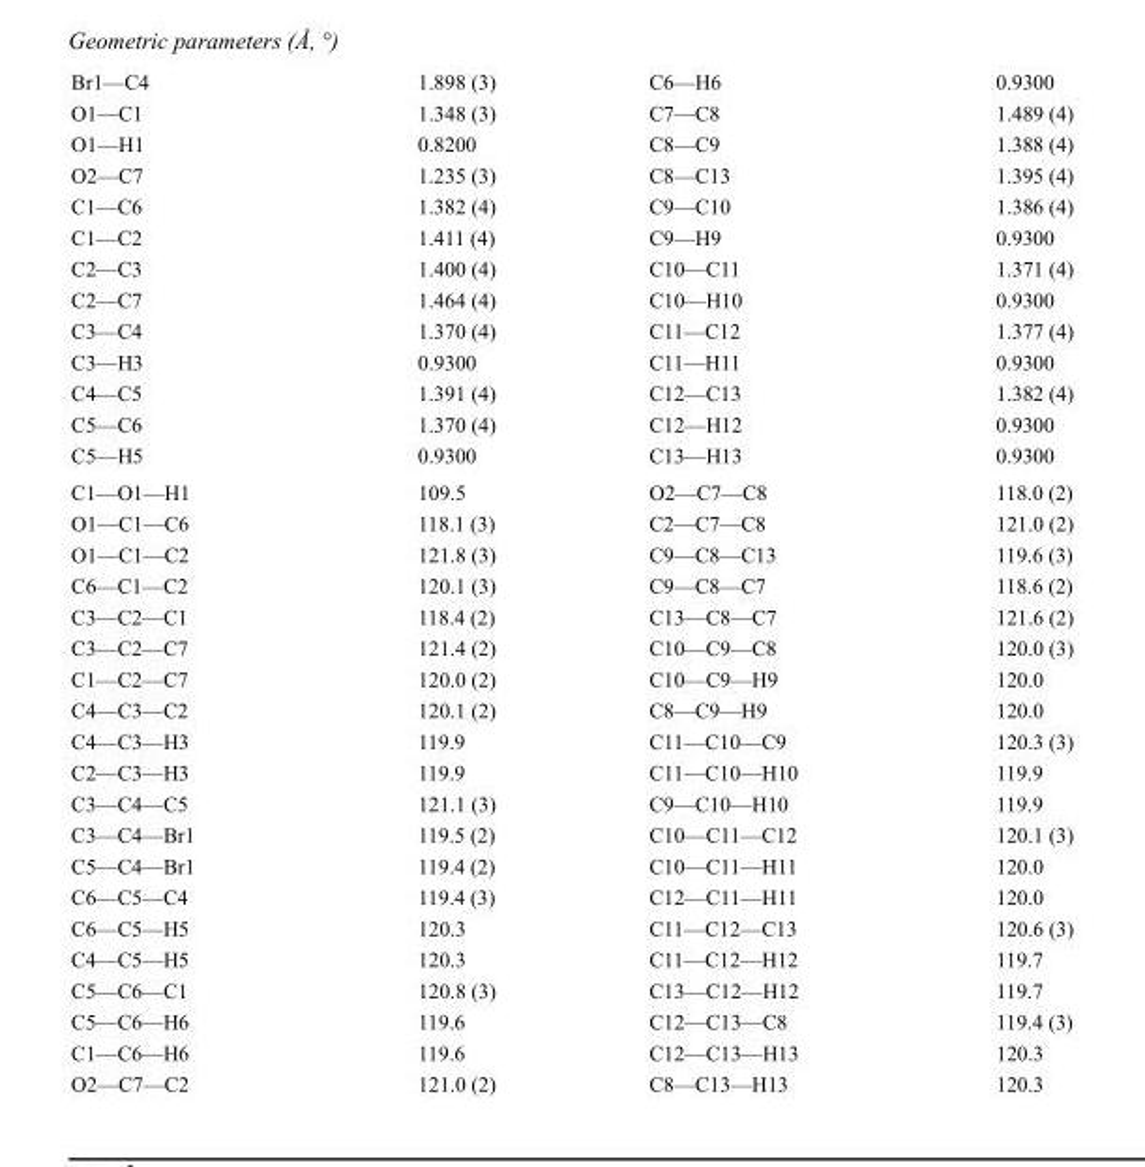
<table><tbody><tr><td>Br1—C4</td><td>1.898 (3)</td><td>C6—H6</td><td>0.9300</td></tr><tr><td>O1—C1</td><td>1.348 (3)</td><td>C7—C8</td><td>1.489 (4)</td></tr><tr><td>O1—H1</td><td>0.8200</td><td>C8—C9</td><td>1.388 (4)</td></tr><tr><td>O2—C7</td><td>1.235 (3)</td><td>C8—C13</td><td>1.395 (4)</td></tr><tr><td>C1—C6</td><td>1.382 (4)</td><td>C9—C10</td><td>1.386 (4)</td></tr><tr><td>C1—C2</td><td>1.411 (4)</td><td>C9—H9</td><td>0.9300</td></tr><tr><td>C2—C3</td><td>1.400 (4)</td><td>C10—C11</td><td>1.371 (4)</td></tr><tr><td>C2—C7</td><td>1.464 (4)</td><td>C10—H10</td><td>0.9300</td></tr><tr><td>C3—C4</td><td>1.370 (4)</td><td>C11—C12</td><td>1.377 (4)</td></tr><tr><td>C3—H3</td><td>0.9300</td><td>C11—H11</td><td>0.9300</td></tr><tr><td>C4—C5</td><td>1.391 (4)</td><td>C12—C13</td><td>1.382 (4)</td></tr><tr><td>C5—C6</td><td>1.370 (4)</td><td>C12—H12</td><td>0.9300</td></tr><tr><td>C5—H5</td><td>0.9300</td><td>C13—H13</td><td>0.9300</td></tr><tr><td>C1—O1—H1</td><td>109.5</td><td>O2—C7—C8</td><td>118.0 (2)</td></tr><tr><td>O1—C1—C6</td><td>118.1 (3)</td><td>C2—C7—C8</td><td>121.0 (2)</td></tr><tr><td>O1—C1—C2</td><td>121.8 (3)</td><td>C9—C8—C13</td><td>119.6 (3)</td></tr><tr><td>C6—C1—C2</td><td>120.1 (3)</td><td>C9—C8—C7</td><td>118.6 (2)</td></tr><tr><td>C3—C2—C1</td><td>118.4 (2)</td><td>C13—C8—C7</td><td>121.6 (2)</td></tr><tr><td>C3—C2—C7</td><td>121.4 (2)</td><td>C10—C9—C8</td><td>120.0 (3)</td></tr><tr><td>C1—C2—C7</td><td>120.0 (2)</td><td>C10—C9—H9</td><td>120.0</td></tr><tr><td>C4—C3—C2</td><td>120.1 (2)</td><td>C8—C9—H9</td><td>120.0</td></tr><tr><td>C4—C3—H3</td><td>119.9</td><td>C11—C10—C9</td><td>120.3 (3)</td></tr><tr><td>C2—C3—H3</td><td>119.9</td><td>C11—C10—H10</td><td>119.9</td></tr><tr><td>C3—C4—C5</td><td>121.1 (3)</td><td>C9—C10—H10</td><td>119.9</td></tr><tr><td>C3—C4—Br1</td><td>119.5 (2)</td><td>C10—C11—C12</td><td>120.1 (3)</td></tr><tr><td>C5—C4—Br1</td><td>119.4 (2)</td><td>C10—C11—H11</td><td>120.0</td></tr><tr><td>C6—C5—C4</td><td>119.4 (3)</td><td>C12—C11—H11</td><td>120.0</td></tr><tr><td>C6—C5—H5</td><td>120.3</td><td>C11—C12—C13</td><td>120.6 (3)</td></tr><tr><td>C4—C5—H5</td><td>120.3</td><td>C11—C12—H12</td><td>119.7</td></tr><tr><td>C5—C6—C1</td><td>120.8 (3)</td><td>C13—C12—H12</td><td>119.7</td></tr><tr><td>C5—C6—H6</td><td>119.6</td><td>C12—C13—C8</td><td>119.4 (3)</td></tr><tr><td>C1—C6—H6</td><td>119.6</td><td>C12—C13—H13</td><td>120.3</td></tr><tr><td>O2—C7—C2</td><td>121.0 (2)</td><td>C8—C13—H13</td><td>120.3</td></tr></tbody></table>